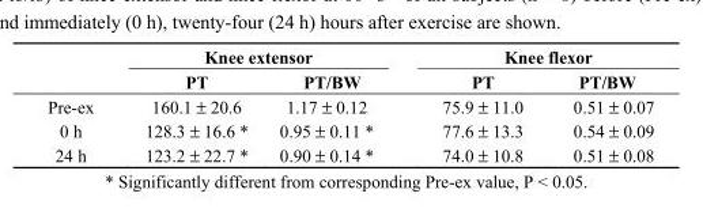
<table><thead><tr><td rowspan="2"></td><td colspan="2">Knee extensor</td><td colspan="2">Knee flexor</td></tr><tr><td>PT</td><td>PT/BW</td><td>PT</td><td>PT/BW</td></tr></thead><tbody><tr><td>Pre-ex</td><td>160.1 ± 20.6</td><td>1.17 ± 0.12</td><td>75.9 ± 11.0</td><td>0.51 ± 0.07</td></tr><tr><td>0 h</td><td>128.3 ± 16.6 *</td><td>0.95 ± 0.11 *</td><td>77.6 ± 13.3</td><td>0.54 ± 0.09</td></tr><tr><td>24 h</td><td>123.2 ± 22.7 *</td><td>0.90 ± 0.14 *</td><td>74.0 ± 10.8</td><td>0.51 ± 0.08</td></tr></tbody></table>